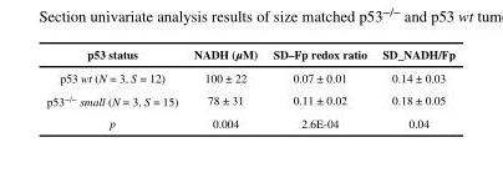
<table><thead><tr><td>p53 status</td><td>NADH (μM)</td><td>SD–Fp redox ratio</td><td>SD_NADH/Fp</td></tr></thead><tbody><tr><td>p53 wt (N = 3, S = 12)</td><td>100 ± 22</td><td>0.07 ± 0.01</td><td>0.14 ± 0.03</td></tr><tr><td>p53<sup>−/−</sup> small (N = 3, S = 15)</td><td>78 ± 31</td><td>0.11 ± 0.02</td><td>0.18 ± 0.05</td></tr><tr><td>p</td><td>0.004</td><td>2.6E-04</td><td>0.04</td></tr></tbody></table>